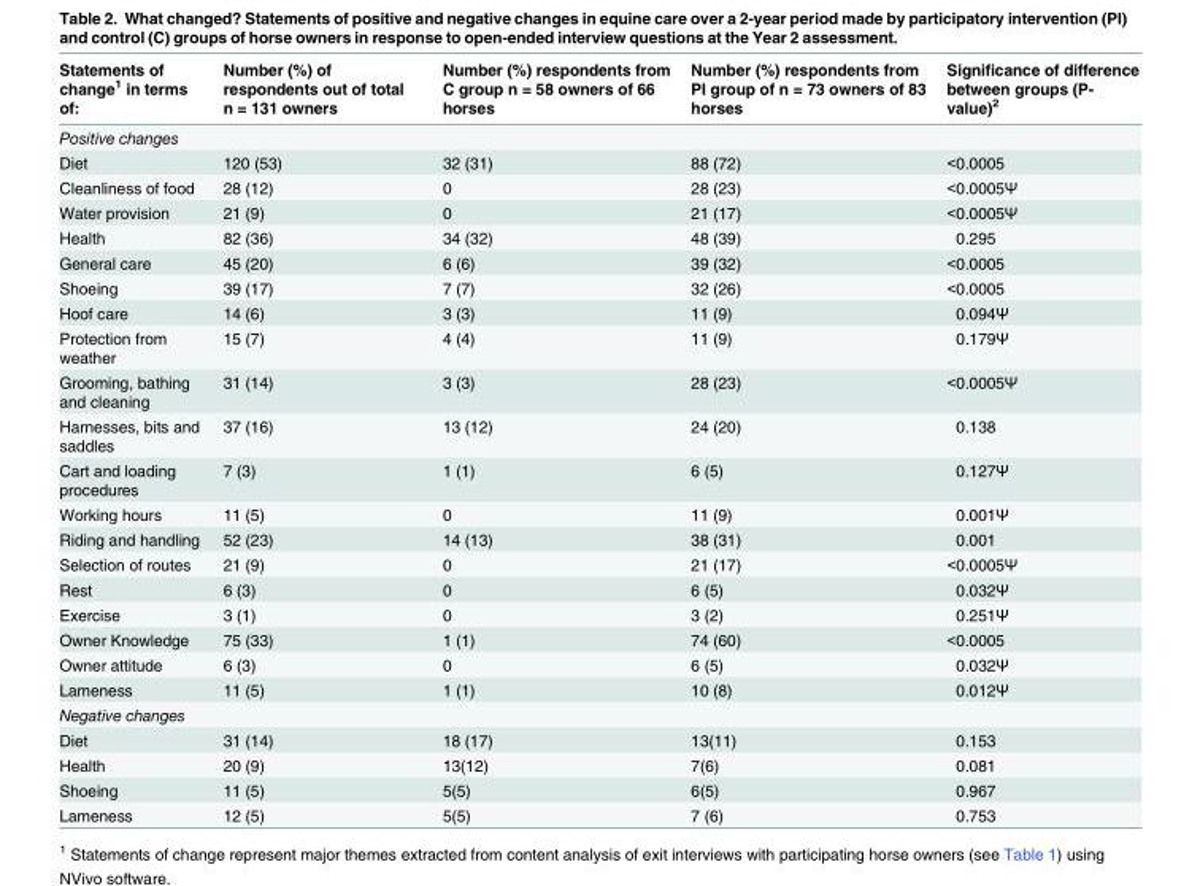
<table><thead><tr><td>Statements of change<sup>1</sup> in terms of:</td><td>Number (%) of respondents out of total n = 131 owners</td><td>Number (%) respondents from C group n = 58 owners of 66 horses</td><td>Number (%) respondents from PI group of n = 73 owners of 83 horses</td><td>Significance of difference between groups (P- value)<sup>2</sup></td></tr></thead><tbody><tr><td colspan="5">Positive changes</td></tr><tr><td>Diet</td><td>120 (53)</td><td>32 (31)</td><td>88 (72)</td><td>&lt;0.0005</td></tr><tr><td>Cleanliness of food</td><td>28 (12)</td><td>0</td><td>28 (23)</td><td>&lt;0.0005Ψ</td></tr><tr><td>Water provision</td><td>21 (9)</td><td>0</td><td>21 (17)</td><td>&lt;0.0005Ψ</td></tr><tr><td>Health</td><td>82 (36)</td><td>34 (32)</td><td>48 (39)</td><td>0.295</td></tr><tr><td>General care</td><td>45 (20)</td><td>6 (6)</td><td>39 (32)</td><td>&lt;0.0005</td></tr><tr><td>Shoeing</td><td>39 (17)</td><td>7 (7)</td><td>32 (26)</td><td>&lt;0.0005</td></tr><tr><td>Hoof care</td><td>14 (6)</td><td>3 (3)</td><td>11 (9)</td><td>0.094Ψ</td></tr><tr><td>Protection from weather</td><td>15 (7)</td><td>4 (4)</td><td>11 (9)</td><td>0.179Ψ</td></tr><tr><td>Grooming, bathing and cleaning</td><td>31 (14)</td><td>3 (3)</td><td>28 (23)</td><td>&lt;0.0005Ψ</td></tr><tr><td>Harnesses, bits and saddles</td><td>37 (16)</td><td>13 (12)</td><td>24 (20)</td><td>0.138</td></tr><tr><td>Cart and loading procedures</td><td>7 (3)</td><td>1 (1)</td><td>6 (5)</td><td>0.127Ψ</td></tr><tr><td>Working hours</td><td>11 (5)</td><td>0</td><td>11 (9)</td><td>0.001Ψ</td></tr><tr><td>Riding and handling</td><td>52 (23)</td><td>14 (13)</td><td>38 (31)</td><td>0.001</td></tr><tr><td>Selection of routes</td><td>21 (9)</td><td>0</td><td>21 (17)</td><td>&lt;0.0005Ψ</td></tr><tr><td>Rest</td><td>6 (3)</td><td>0</td><td>6 (5)</td><td>0.032Ψ</td></tr><tr><td>Exercise</td><td>3 (1)</td><td>0</td><td>3 (2)</td><td>0.251Ψ</td></tr><tr><td>Owner Knowledge</td><td>75 (33)</td><td>1 (1)</td><td>74 (60)</td><td>&lt;0.0005</td></tr><tr><td>Owner attitude</td><td>6 (3)</td><td>0</td><td>6 (5)</td><td>0.032Ψ</td></tr><tr><td>Lameness</td><td>11 (5)</td><td>1 (1)</td><td>10 (8)</td><td>0.012Ψ</td></tr><tr><td colspan="5">Negative changes</td></tr><tr><td>Diet</td><td>31 (14)</td><td>18 (17)</td><td>13(11)</td><td>0.153</td></tr><tr><td>Health</td><td>20 (9)</td><td>13(12)</td><td>7(6)</td><td>0.081</td></tr><tr><td>Shoeing</td><td>11 (5)</td><td>5(5)</td><td>6(5)</td><td>0.967</td></tr><tr><td>Lameness</td><td>12 (5)</td><td>5(5)</td><td>7 (6)</td><td>0.753</td></tr></tbody></table>